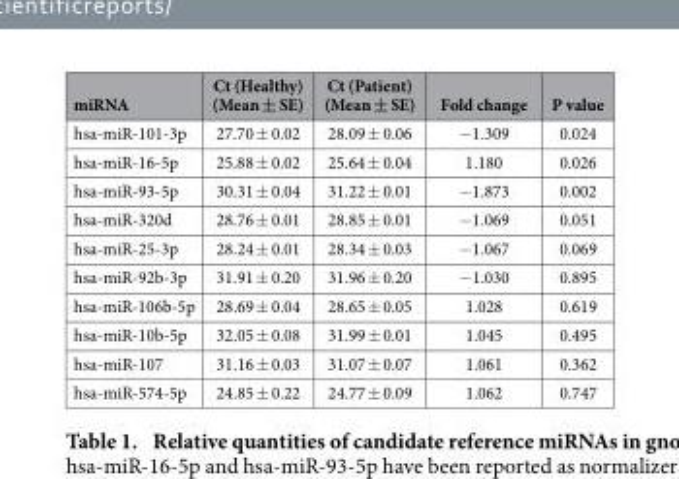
<table><thead><tr><td>miRNA</td><td>Ct (Healthy) (Mean ± SE)</td><td>Ct (Patient) (Mean ± SE)</td><td>Fold change</td><td>P value</td></tr></thead><tbody><tr><td>hsa-miR-101-3p</td><td>27.70 ± 0.02</td><td>28.09 ± 0.06</td><td>− 1.309</td><td>0.024</td></tr><tr><td>hsa-miR-16-5p</td><td>25.88 ± 0.02</td><td>25.64 ± 0.04</td><td>1.180</td><td>0.026</td></tr><tr><td>hsa-miR-93-5p</td><td>30.31 ± 0.04</td><td>31.22 ± 0.01</td><td>− 1.873</td><td>0.002</td></tr><tr><td>hsa-miR-320d</td><td>28.76 ± 0.01</td><td>28.85 ± 0.01</td><td>− 1.069</td><td>0.051</td></tr><tr><td>hsa-miR-25-3p</td><td>28.24 ± 0.01</td><td>28.34 ± 0.03</td><td>− 1.067</td><td>0.069</td></tr><tr><td>hsa-miR-92b-3p</td><td>31.91 ± 0.20</td><td>31.96 ± 0.20</td><td>− 1.030</td><td>0.895</td></tr><tr><td>hsa-miR-106b-5p</td><td>28.69 ± 0.04</td><td>28.65 ± 0.05</td><td>1.028</td><td>0.619</td></tr><tr><td>hsa-miR-10b-5p</td><td>32.05 ± 0.08</td><td>31.99 ± 0.01</td><td>1.045</td><td>0.495</td></tr><tr><td>hsa-miR-107</td><td>31.16 ± 0.03</td><td>31.07 ± 0.07</td><td>1.061</td><td>0.362</td></tr><tr><td>hsa-miR-574-5p</td><td>24.85 ± 0.22</td><td>24.77 ± 0.09</td><td>1.062</td><td>0.747</td></tr></tbody></table>